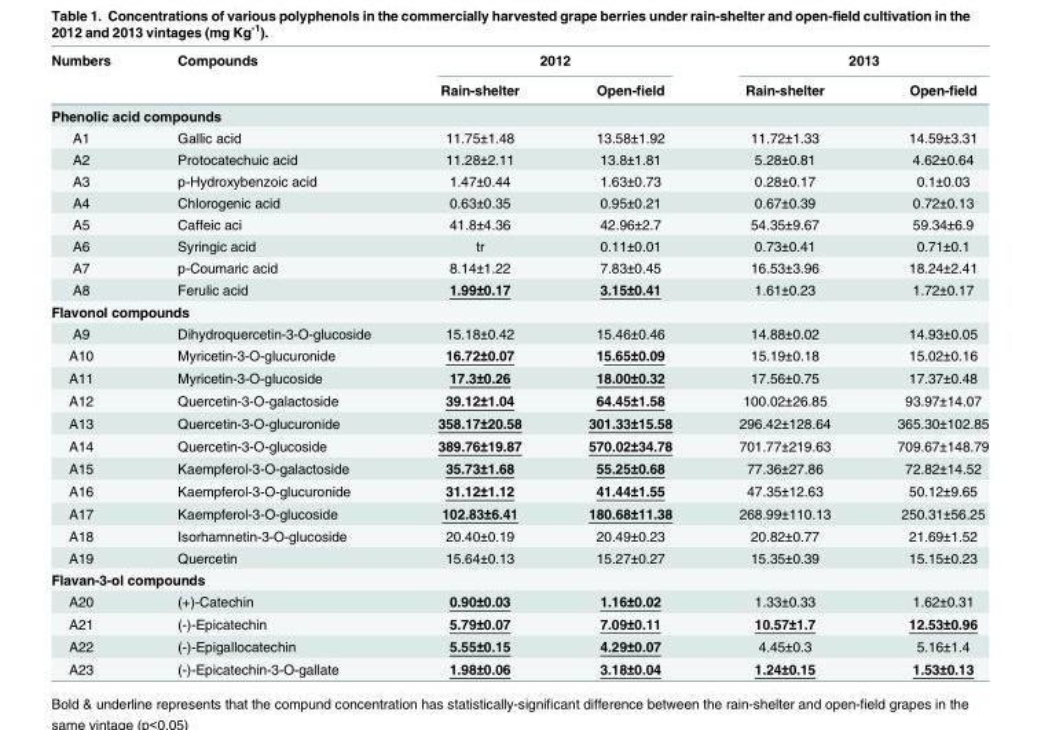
<table><thead><tr><td rowspan="2">Numbers</td><td rowspan="2">Compounds</td><td colspan="2">2012</td><td colspan="2">2013</td></tr><tr><td>Rain-shelter</td><td>Open-field</td><td>Rain-shelter</td><td>Open-field</td></tr></thead><tbody><tr><td colspan="6">Phenolic acid compounds</td></tr><tr><td>A1</td><td>Gallic acid</td><td>11.75±1.48</td><td>13.58±1.92</td><td>11.72±1.33</td><td>14.59±3.31</td></tr><tr><td>A2</td><td>Protocatechuic acid</td><td>11.28±2.11</td><td>13.8±1.81</td><td>5.28±0.81</td><td>4.62±0.64</td></tr><tr><td>A3</td><td>p-Hydroxybenzoic acid</td><td>1.47±0.44</td><td>1.63±0.73</td><td>0.28±0.17</td><td>0.1±0.03</td></tr><tr><td>A4</td><td>Chlorogenic acid</td><td>0.63±0.35</td><td>0.95±0.21</td><td>0.67±0.39</td><td>0.72±0.13</td></tr><tr><td>A5</td><td>Caffeic aci</td><td>41.8±4.36</td><td>42.96±2.7</td><td>54.35±9.67</td><td>59.34±6.9</td></tr><tr><td>A6</td><td>Syringic acid</td><td>tr</td><td>0.11±0.01</td><td>0.73±0.41</td><td>0.71±0.1</td></tr><tr><td>A7</td><td>p-Coumaric acid</td><td>8.14±1.22</td><td>7.83±0.45</td><td>16.53±3.96</td><td>18.24±2.41</td></tr><tr><td>A8</td><td>Ferulic acid</td><td>1.99±0.17</td><td>3.15±0.41</td><td>1.61±0.23</td><td>1.72±0.17</td></tr><tr><td colspan="6">Flavonol compounds</td></tr><tr><td>A9</td><td>Dihydroquercetin-3-O-glucoside</td><td>15.18±0.42</td><td>15.46±0.46</td><td>14.88±0.02</td><td>14.93±0.05</td></tr><tr><td>A10</td><td>Myricetin-3-O-glucuronide</td><td>16.72±0.07</td><td>15.65±0.09</td><td>15.19±0.18</td><td>15.02±0.16</td></tr><tr><td>A11</td><td>Myricetin-3-O-glucoside</td><td>17.3±0.26</td><td>18.00±0.32</td><td>17.56±0.75</td><td>17.37±0.48</td></tr><tr><td>A12</td><td>Quercetin-3-O-galactoside</td><td>39.12±1.04</td><td>64.45±1.58</td><td>100.02±26.85</td><td>93.97±14.07</td></tr><tr><td>A13</td><td>Quercetin-3-O-glucuronide</td><td>358.17±20.58</td><td>301.33±15.58</td><td>296.42±128.64</td><td>365.30±102.85</td></tr><tr><td>A14</td><td>Quercetin-3-O-glucoside</td><td>389.76±19.87</td><td>570.02±34.78</td><td>701.77±219.63</td><td>709.67±148.79</td></tr><tr><td>A15</td><td>Kaempferol-3-O-galactoside</td><td>35.73±1.68</td><td>55.25±0.68</td><td>77.36±27.86</td><td>72.82±14.52</td></tr><tr><td>A16</td><td>Kaempferol-3-O-glucuronide</td><td>31.12±1.12</td><td>41.44±1.55</td><td>47.35±12.63</td><td>50.12±9.65</td></tr><tr><td>A17</td><td>Kaempferol-3-O-glucoside</td><td>102.83±6.41</td><td>180.68±11.38</td><td>268.99±110.13</td><td>250.31±56.25</td></tr><tr><td>A18</td><td>Isorhamnetin-3-O-glucoside</td><td>20.40±0.19</td><td>20.49±0.23</td><td>20.82±0.77</td><td>21.69±1.52</td></tr><tr><td>A19</td><td>Quercetin</td><td>15.64±0.13</td><td>15.27±0.27</td><td>15.35±0.39</td><td>15.15±0.23</td></tr><tr><td colspan="6">Flavan-3-ol compounds</td></tr><tr><td>A20</td><td>(+)-Catechin</td><td>0.90±0.03</td><td>1.16±0.02</td><td>1.33±0.33</td><td>1.62±0.31</td></tr><tr><td>A21</td><td>(-)-Epicatechin</td><td>5.79±0.07</td><td>7.09±0.11</td><td>10.57±1.7</td><td>12.53±0.96</td></tr><tr><td>A22</td><td>(-)-Epigallocatechin</td><td>5.55±0.15</td><td>4.29±0.07</td><td>4.45±0.3</td><td>5.16±1.4</td></tr><tr><td>A23</td><td>(-)-Epicatechin-3-O-gallate</td><td>1.98±0.06</td><td>3.18±0.04</td><td>1.24±0.15</td><td>1.53±0.13</td></tr></tbody></table>